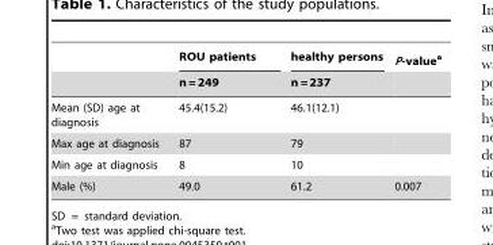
<table><thead><tr><td rowspan="2"></td><td rowspan="2">ROU patients n = 249</td><td rowspan="2">healthy persons n = 237</td><td rowspan="2">P-value<sup>a</sup></td></tr><tr></tr></thead><tbody><tr><td>Mean (SD) age at diagnosis</td><td>45.4(15.2)</td><td>46.1(12.1)</td><td></td></tr><tr><td>Max age at diagnosis</td><td>87</td><td>79</td><td></td></tr><tr><td>Min age at diagnosis</td><td>8</td><td>10</td><td></td></tr><tr><td>Male (%)</td><td>49.0</td><td>61.2</td><td>0.007</td></tr></tbody></table>